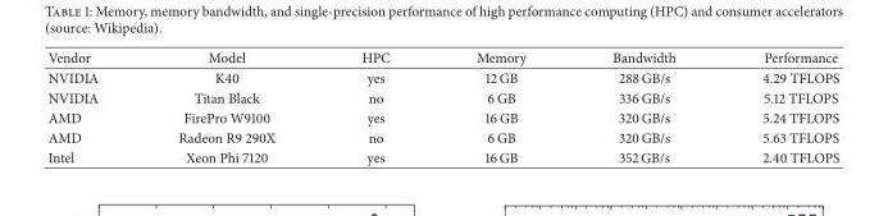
<table><thead><tr><td>Vendor</td><td>Model</td><td>HPC</td><td>Memory</td><td>Bandwidth</td><td>Performance</td></tr></thead><tbody><tr><td>NVIDIA</td><td>K40</td><td>yes</td><td>12 GB</td><td>288 GB/s</td><td>4.29 TFLOPS</td></tr><tr><td>NVIDIA</td><td>Titan Black</td><td>no</td><td>6 GB</td><td>336 GB/s</td><td>5.12 TFLOPS</td></tr><tr><td>AMD</td><td>FirePro W9100</td><td>yes</td><td>16 GB</td><td>320 GB/s</td><td>5.24 TFLOPS</td></tr><tr><td>AMD</td><td>Radeon R9 290X</td><td>no</td><td>6 GB</td><td>320 GB/s</td><td>5.63 TFLOPS</td></tr><tr><td>Intel</td><td>Xeon Phi 7120</td><td>yes</td><td>16 GB</td><td>352 GB/s</td><td>2.40 TFLOPS</td></tr></tbody></table>